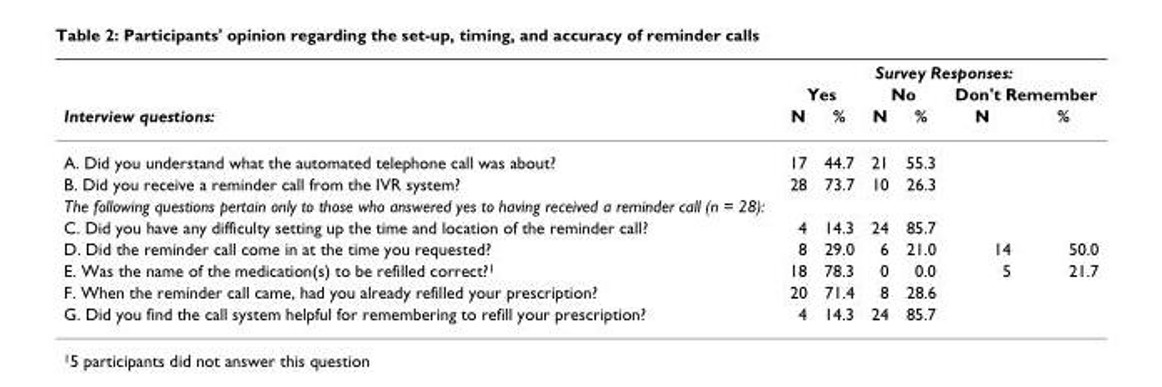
<table><thead><tr><td rowspan="3">Interview questions:</td><td colspan="6">Survey Responses:</td></tr><tr><td colspan="2">Yes</td><td colspan="2">No</td><td colspan="2">Don&#x27;t Remember</td></tr><tr><td>N</td><td>%</td><td>N</td><td>%</td><td>N</td><td>%</td></tr></thead><tbody><tr><td>A. Did you understand what the automated telephone call was about?</td><td>17</td><td>44.7</td><td>21</td><td>55.3</td><td></td><td></td></tr><tr><td>B. Did you receive a reminder call from the IVR system?</td><td>28</td><td>73.7</td><td>10</td><td>26.3</td><td></td><td></td></tr><tr><td colspan="7">The following questions pertain only to those who answered yes to having received a reminder call (n = 28):</td></tr><tr><td>C. Did you have any difficulty setting up the time and location of the reminder call?</td><td>4</td><td>14.3</td><td>24</td><td>85.7</td><td></td><td></td></tr><tr><td>D. Did the reminder call come in at the time you requested?</td><td>8</td><td>29.0</td><td>6</td><td>21.0</td><td>14</td><td>50.0</td></tr><tr><td>E. Was the name of the medication(s) to be refilled correct?<sup>1</sup></td><td>18</td><td>78.3</td><td>0</td><td>0.0</td><td>5</td><td>21.7</td></tr><tr><td>F. When the reminder call came, had you already refilled your prescription?</td><td>20</td><td>71.4</td><td>8</td><td>28.6</td><td></td><td></td></tr><tr><td>G. Did you find the call system helpful for remembering to refill your prescription?</td><td>4</td><td>14.3</td><td>24</td><td>85.7</td><td></td><td></td></tr></tbody></table>